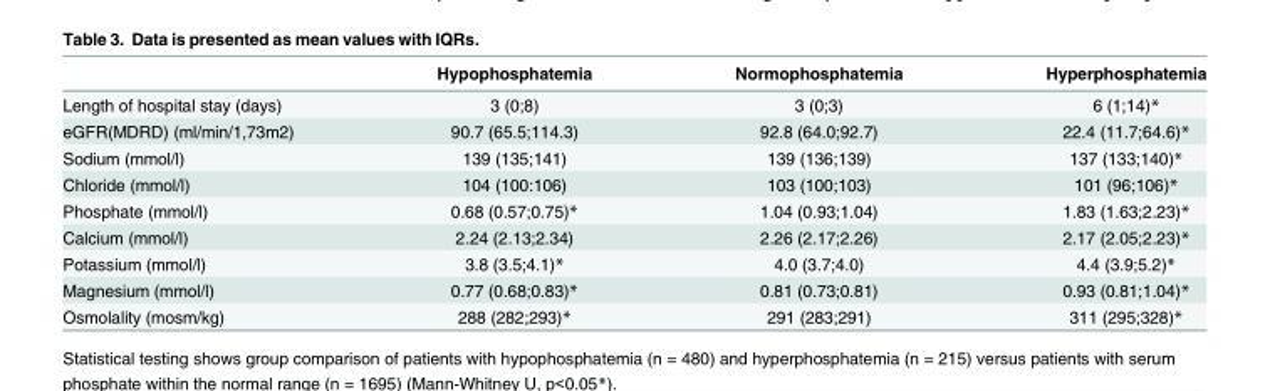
<table><thead><tr><td></td><td>Hypophosphatemia</td><td>Normophosphatemia</td><td>Hyperphosphatemia</td></tr></thead><tbody><tr><td>Length of hospital stay (days)</td><td>3 (0;8)</td><td>3 (0;3)</td><td>6 (1;14)*</td></tr><tr><td>eGFR(MDRD) (ml/min/1,73m2)</td><td>90.7 (65.5;114.3)</td><td>92.8 (64.0;92.7)</td><td>22.4 (11.7;64.6)*</td></tr><tr><td>Sodium (mmol/l)</td><td>139 (135;141)</td><td>139 (136;139)</td><td>137 (133;140)*</td></tr><tr><td>Chloride (mmol/l)</td><td>104 (100:106)</td><td>103 (100;103)</td><td>101 (96;106)*</td></tr><tr><td>Phosphate (mmol/l)</td><td>0.68 (0.57;0.75)*</td><td>1.04 (0.93;1.04)</td><td>1.83 (1.63;2.23)*</td></tr><tr><td>Calcium (mmol/l)</td><td>2.24 (2.13;2.34)</td><td>2.26 (2.17;2.26)</td><td>2.17 (2.05;2.23)*</td></tr><tr><td>Potassium (mmol/l)</td><td>3.8 (3.5;4.1)*</td><td>4.0 (3.7;4.0)</td><td>4.4 (3.9;5.2)*</td></tr><tr><td>Magnesium (mmol/l)</td><td>0.77 (0.68;0.83)*</td><td>0.81 (0.73;0.81)</td><td>0.93 (0.81;1.04)*</td></tr><tr><td>Osmolality (mosm/kg)</td><td>288 (282;293)*</td><td>291 (283;291)</td><td>311 (295;328)*</td></tr></tbody></table>